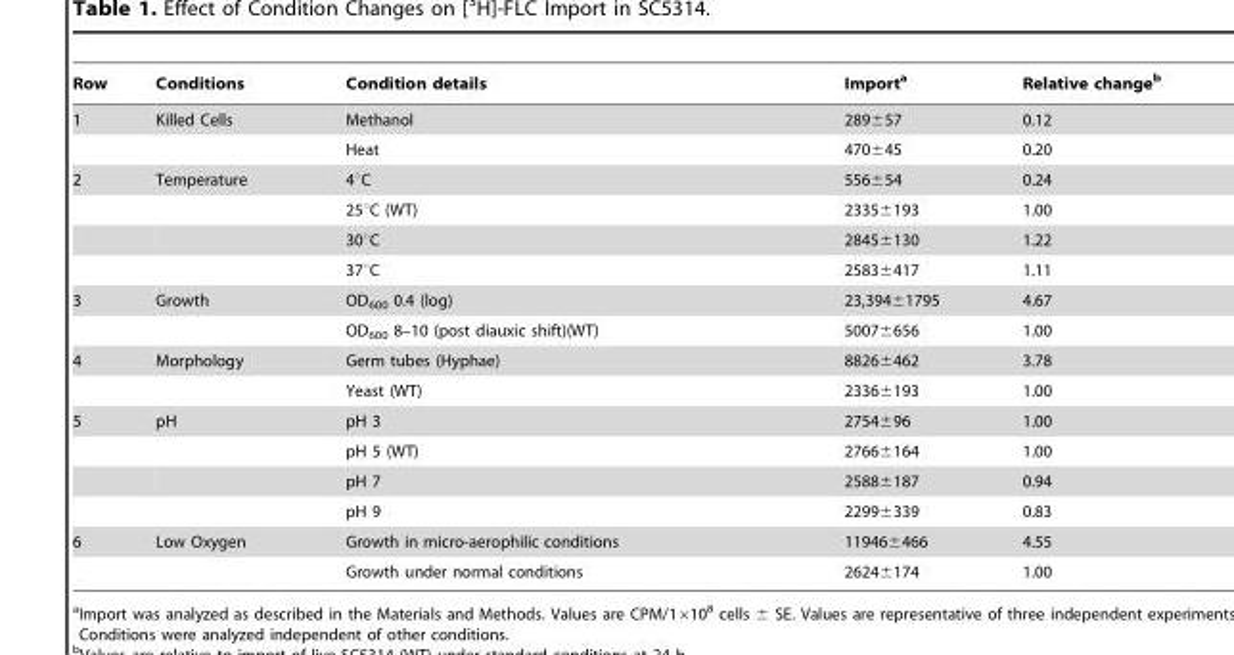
<table><thead><tr><td>Row</td><td>Conditions</td><td>Condition details</td><td>Import<sup>a</sup></td><td>Relative change<sup>b</sup></td></tr></thead><tbody><tr><td rowspan="2">1</td><td>Killed Cells</td><td>Methanol</td><td>289±57</td><td>0.12</td></tr><tr><td></td><td>Heat</td><td>470±45</td><td>0.20</td></tr><tr><td rowspan="4">2</td><td>Temperature</td><td>4°C</td><td>556±54</td><td>0.24</td></tr><tr><td></td><td>25°C (WT)</td><td>2335±193</td><td>1.00</td></tr><tr><td></td><td>30°C</td><td>2845±130</td><td>1.22</td></tr><tr><td></td><td>37°C</td><td>2583±417</td><td>1.11</td></tr><tr><td rowspan="2">3</td><td>Growth</td><td>OD<sub>600</sub> 0.4 (log)</td><td>23,394±1795</td><td>4.67</td></tr><tr><td></td><td>OD<sub>600</sub> 8–10 (post diauxic shift)(WT)</td><td>5007±656</td><td>1.00</td></tr><tr><td rowspan="2">4</td><td>Morphology</td><td>Germ tubes (Hyphae)</td><td>8826±462</td><td>3.78</td></tr><tr><td></td><td>Yeast (WT)</td><td>2336±193</td><td>1.00</td></tr><tr><td rowspan="4">5</td><td>pH</td><td>pH 3</td><td>2754±96</td><td>1.00</td></tr><tr><td></td><td>pH 5 (WT)</td><td>2766±164</td><td>1.00</td></tr><tr><td></td><td>pH 7</td><td>2588±187</td><td>0.94</td></tr><tr><td></td><td>pH 9</td><td>2299±339</td><td>0.83</td></tr><tr><td rowspan="2">6</td><td>Low Oxygen</td><td>Growth in micro-aerophilic conditions</td><td>11946±466</td><td>4.55</td></tr><tr><td></td><td>Growth under normal conditions</td><td>2624±174</td><td>1.00</td></tr></tbody></table>